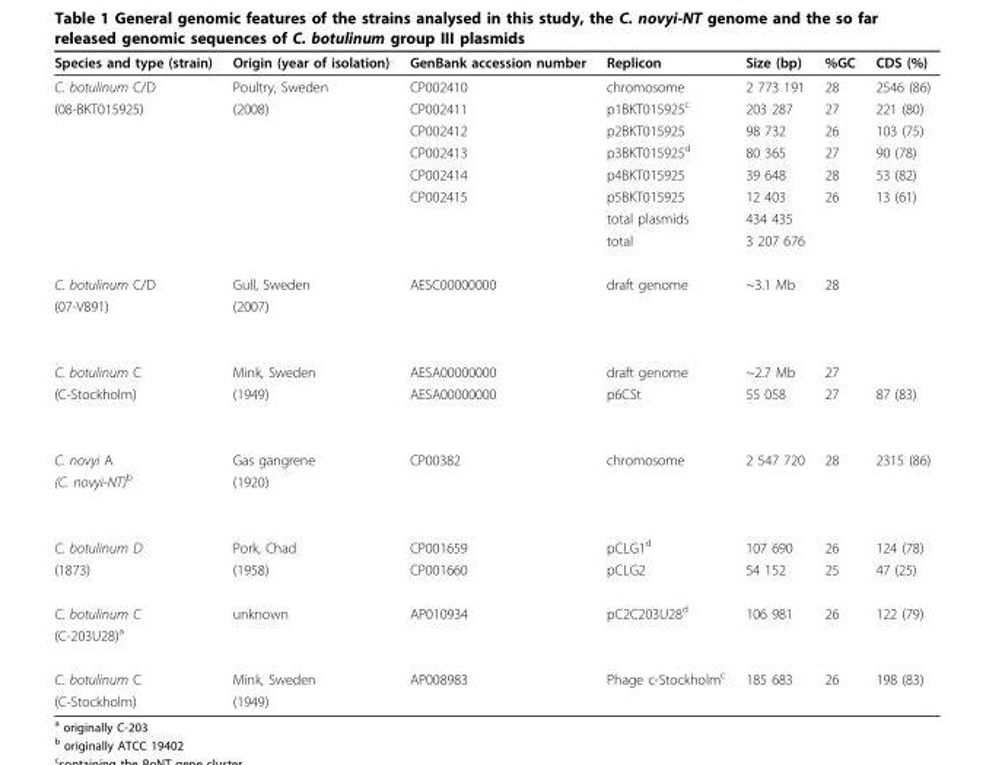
<table><thead><tr><td>Species and type (strain)</td><td>Origin (year of isolation)</td><td>GenBank accession number</td><td>Replicon</td><td>Size (bp)</td><td>%GC</td><td>CDS (%)</td></tr></thead><tbody><tr><td>C. botulinum C/D</td><td>Poultry, Sweden</td><td>CP002410</td><td>chromosome</td><td>2 773 191</td><td>28</td><td>2546 (86)</td></tr><tr><td rowspan="7">(08-BKT015925)</td><td>(2008)</td><td>CP002411</td><td>p1BKT015925<sup>c</sup></td><td>203 287</td><td>27</td><td>221 (80)</td></tr><tr><td></td><td>CP002412</td><td>p2BKT015925</td><td>98 732</td><td>26</td><td>103 (75)</td></tr><tr><td></td><td>CP002413</td><td>p3BKT015925<sup>d</sup></td><td>80 365</td><td>27</td><td>90 (78)</td></tr><tr><td></td><td>CP002414</td><td>p4BKT015925</td><td>39 648</td><td>28</td><td>53 (82)</td></tr><tr><td></td><td>CP002415</td><td>p5BKT015925</td><td>12 403</td><td>26</td><td>13 (61)</td></tr><tr><td></td><td></td><td>total plasmids</td><td>434 435</td><td></td><td></td></tr><tr><td></td><td></td><td>total</td><td>3 207 676</td><td></td><td></td></tr><tr><td>C. botulinum C/D</td><td>Gull, Sweden</td><td>AESC00000000</td><td>draft genome</td><td>~3.1 Mb</td><td>28</td><td></td></tr><tr><td>(07-V891)</td><td>(2007)</td><td></td><td></td><td></td><td></td><td></td></tr><tr><td>C. botulinum C</td><td>Mink, Sweden</td><td>AESA00000000</td><td>draft genome</td><td>~2.7 Mb</td><td>27</td><td></td></tr><tr><td>(C-Stockholm)</td><td>(1949)</td><td>AESA00000000</td><td>p6CSt</td><td>55 058</td><td>27</td><td>87 (83)</td></tr><tr><td>C. novyi A</td><td>Gas gangrene</td><td>CP00382</td><td>chromosome</td><td>2 547 720</td><td>28</td><td>2315 (86)</td></tr><tr><td>(C. novyi-NT)<sup>b</sup></td><td>(1920)</td><td></td><td></td><td></td><td></td><td></td></tr><tr><td>C. botulinum D</td><td>Pork, Chad</td><td>CP001659</td><td>pCLG1<sup>d</sup></td><td>107 690</td><td>26</td><td>124 (78)</td></tr><tr><td>(1873)</td><td>(1958)</td><td>CP001660</td><td>pCLG2</td><td>54 152</td><td>25</td><td>47 (25)</td></tr><tr><td>C. botulinum C</td><td>unknown</td><td>AP010934</td><td>pC2C203U28<sup>d</sup></td><td>106 981</td><td>26</td><td>122 (79)</td></tr><tr><td colspan="7">(C-203U28)<sup>a</sup></td></tr><tr><td>C. botulinum C</td><td>Mink, Sweden</td><td>AP008983</td><td>Phage c-Stockholm<sup>c</sup></td><td>185 683</td><td>26</td><td>198 (83)</td></tr><tr><td>(C-Stockholm)</td><td>(1949)</td><td></td><td></td><td></td><td></td><td></td></tr></tbody></table>